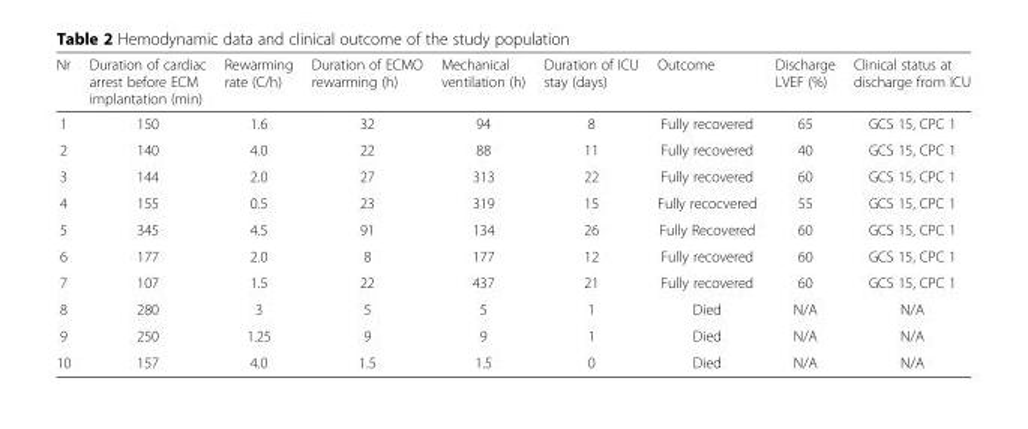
<table><thead><tr><td>Nr</td><td>Duration of cardiac arrest before ECM implantation (min)</td><td>Rewarming rate (C/h)</td><td>Duration of ECMO rewarming (h)</td><td>Mechanical ventilation (h)</td><td>Duration of ICU stay (days)</td><td>Outcome</td><td>Discharge LVEF (%)</td><td>Clinical status at discharge from ICU</td></tr></thead><tbody><tr><td>1</td><td>150</td><td>1.6</td><td>32</td><td>94</td><td>8</td><td>Fully recovered</td><td>65</td><td>GCS 15, CPC 1</td></tr><tr><td>2</td><td>140</td><td>4.0</td><td>22</td><td>88</td><td>11</td><td>Fully recovered</td><td>40</td><td>GCS 15, CPC 1</td></tr><tr><td>3</td><td>144</td><td>2.0</td><td>27</td><td>313</td><td>22</td><td>Fully recovered</td><td>60</td><td>GCS 15, CPC 1</td></tr><tr><td>4</td><td>155</td><td>0.5</td><td>23</td><td>319</td><td>15</td><td>Fully recocvered</td><td>55</td><td>GCS 15, CPC 1</td></tr><tr><td>5</td><td>345</td><td>4.5</td><td>91</td><td>134</td><td>26</td><td>Fully Recovered</td><td>60</td><td>GCS 15, CPC 1</td></tr><tr><td>6</td><td>177</td><td>2.0</td><td>8</td><td>177</td><td>12</td><td>Fully recovered</td><td>60</td><td>GCS 15, CPC 1</td></tr><tr><td>7</td><td>107</td><td>1.5</td><td>22</td><td>437</td><td>21</td><td>Fully recovered</td><td>60</td><td>GCS 15, CPC 1</td></tr><tr><td>8</td><td>280</td><td>3</td><td>5</td><td>5</td><td>1</td><td>Died</td><td>N/A</td><td>N/A</td></tr><tr><td>9</td><td>250</td><td>1.25</td><td>9</td><td>9</td><td>1</td><td>Died</td><td>N/A</td><td>N/A</td></tr><tr><td>10</td><td>157</td><td>4.0</td><td>1.5</td><td>1.5</td><td>0</td><td>Died</td><td>N/A</td><td>N/A</td></tr></tbody></table>